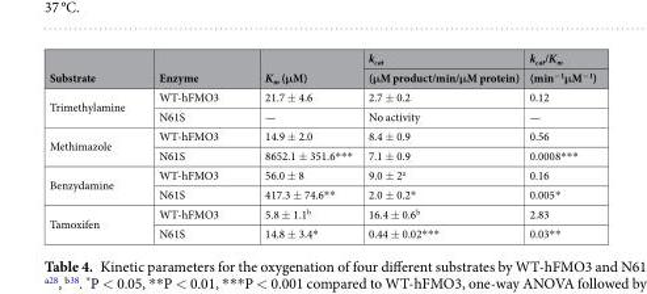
<table><thead><tr><td rowspan="2">Substrate</td><td rowspan="2">Enzyme</td><td rowspan="2">K<sub>m</sub> (μM)</td><td rowspan="2">k<sub>cat</sub> (μM product/min/μM protein)</td><td rowspan="2">k<sub>cat</sub>/K<sub>m</sub> (min<sup>−1</sup>μM<sup>−1</sup>)</td></tr><tr></tr></thead><tbody><tr><td rowspan="2">Trimethylamine</td><td>WT-hFMO3</td><td>21.7 ± 4.6</td><td>2.7 ± 0.2</td><td>0.12</td></tr><tr><td>N61S</td><td>—</td><td>No activity</td><td>—</td></tr><tr><td rowspan="2">Methimazole</td><td>WT-hFMO3</td><td>14.9 ± 2.0</td><td>8.4 ± 0.9</td><td>0.56</td></tr><tr><td>N61S</td><td>8652.1 ± 351.6***</td><td>7.1 ± 0.9</td><td>0.0008***</td></tr><tr><td rowspan="2">Benzydamine</td><td>WT-hFMO3</td><td>56.0 ± 8</td><td>9.0 ± 2<sup>a</sup></td><td>0.16</td></tr><tr><td>N61S</td><td>417.3 ± 74.6**</td><td>2.0 ± 0.2*</td><td>0.005*</td></tr><tr><td rowspan="2">Tamoxifen</td><td>WT-hFMO3</td><td>5.8 ± 1.1<sup>b</sup></td><td>16.4 ± 0.6<sup>b</sup></td><td>2.83</td></tr><tr><td>N61S</td><td>14.8 ± 3.4*</td><td>0.44 ± 0.02***</td><td>0.03**</td></tr></tbody></table>